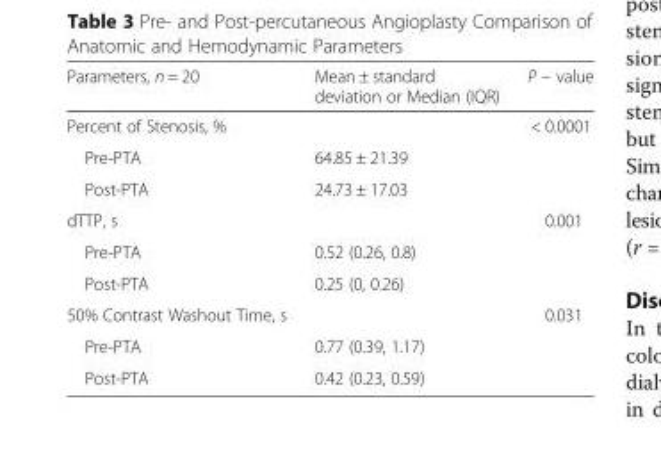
<table><thead><tr><td>Parameters, n = 20</td><td>Mean ± standard deviation or Median (IQR)</td><td>P – value</td></tr></thead><tbody><tr><td>Percent of Stenosis, %</td><td></td><td>&lt; 0.0001</td></tr><tr><td>Pre-PTA</td><td>64.85 ± 21.39</td><td></td></tr><tr><td>Post-PTA</td><td>24.73 ± 17.03</td><td></td></tr><tr><td>dTTP, s</td><td></td><td>0.001</td></tr><tr><td>Pre-PTA</td><td>0.52 (0.26, 0.8)</td><td></td></tr><tr><td>Post-PTA</td><td>0.25 (0, 0.26)</td><td></td></tr><tr><td>50% Contrast Washout Time, s</td><td></td><td>0.031</td></tr><tr><td>Pre-PTA</td><td>0.77 (0.39, 1.17)</td><td></td></tr><tr><td>Post-PTA</td><td>0.42 (0.23, 0.59)</td><td></td></tr></tbody></table>